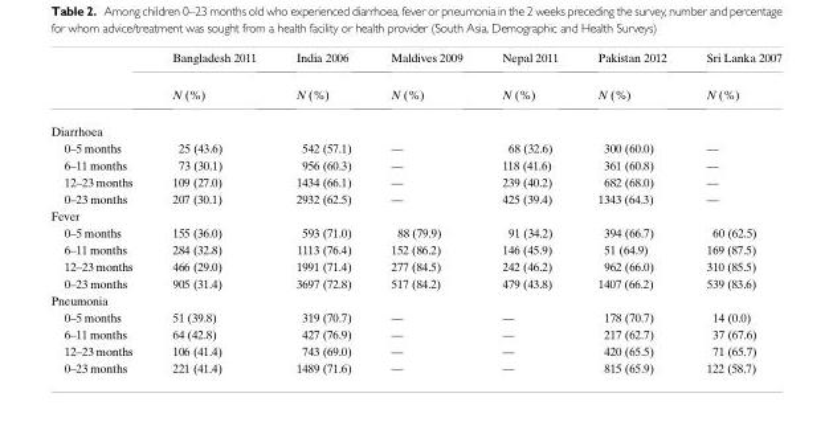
<table><thead><tr><td rowspan="2"></td><td rowspan="2">Bangladesh 2011 N (%)</td><td rowspan="2">India 2006 N (%)</td><td rowspan="2">Maldives 2009 N (%)</td><td rowspan="2">Nepal 2011 N (%)</td><td rowspan="2">Pakistan 2012 N (%)</td><td rowspan="2">Sri Lanka 2007 N (%)</td></tr><tr></tr></thead><tbody><tr><td colspan="7">Diarrhoea</td></tr><tr><td>0–5 months</td><td>25 (43.6)</td><td>542 (57.1)</td><td>—</td><td>68 (32.6)</td><td>300 (60.0)</td><td>—</td></tr><tr><td>6–11 months</td><td>73 (30.1)</td><td>956 (60.3)</td><td>—</td><td>118 (41.6)</td><td>361 (60.8)</td><td>—</td></tr><tr><td>12–23 months</td><td>109 (27.0)</td><td>1434 (66.1)</td><td>—</td><td>239 (40.2)</td><td>682 (68.0)</td><td>—</td></tr><tr><td>0–23 months</td><td>207 (30.1)</td><td>2932 (62.5)</td><td>—</td><td>425 (39.4)</td><td>1343 (64.3)</td><td>—</td></tr><tr><td colspan="7">Fever</td></tr><tr><td>0–5 months</td><td>155 (36.0)</td><td>593 (71.0)</td><td>88 (79.9)</td><td>91 (34.2)</td><td>394 (66.7)</td><td>60 (62.5)</td></tr><tr><td>6–11 months</td><td>284 (32.8)</td><td>1113 (76.4)</td><td>152 (86.2)</td><td>146 (45.9)</td><td>51 (64.9)</td><td>169 (87.5)</td></tr><tr><td>12–23 months</td><td>466 (29.0)</td><td>1991 (71.4)</td><td>277 (84.5)</td><td>242 (46.2)</td><td>962 (66.0)</td><td>310 (85.5)</td></tr><tr><td>0–23 months</td><td>905 (31.4)</td><td>3697 (72.8)</td><td>517 (84.2)</td><td>479 (43.8)</td><td>1407 (66.2)</td><td>539 (83.6)</td></tr><tr><td colspan="7">Pneumonia</td></tr><tr><td>0–5 months</td><td>51 (39.8)</td><td>319 (70.7)</td><td>—</td><td>—</td><td>178 (70.7)</td><td>14 (0.0)</td></tr><tr><td>6–11 months</td><td>64 (42.8)</td><td>427 (76.9)</td><td>—</td><td>—</td><td>217 (62.7)</td><td>37 (67.6)</td></tr><tr><td>12–23 months</td><td>106 (41.4)</td><td>743 (69.0)</td><td>—</td><td>—</td><td>420 (65.5)</td><td>71 (65.7)</td></tr><tr><td>0–23 months</td><td>221 (41.4)</td><td>1489 (71.6)</td><td>—</td><td>—</td><td>815 (65.9)</td><td>122 (58.7)</td></tr></tbody></table>